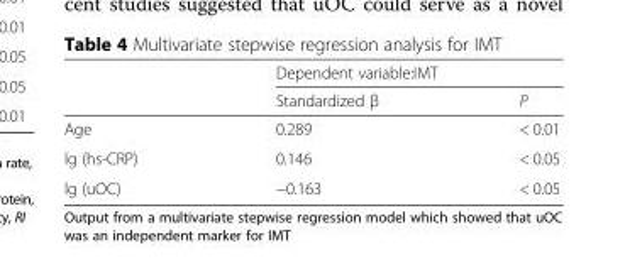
<table><thead><tr><td rowspan="2"></td><td colspan="2">Dependent variable:IMT</td></tr><tr><td>Standardized β</td><td>P</td></tr></thead><tbody><tr><td>Age</td><td>0.289</td><td>&lt; 0.01</td></tr><tr><td>lg (hs-CRP)</td><td>0.146</td><td>&lt; 0.05</td></tr><tr><td>lg (uOC)</td><td>−0.163</td><td>&lt; 0.05</td></tr></tbody></table>